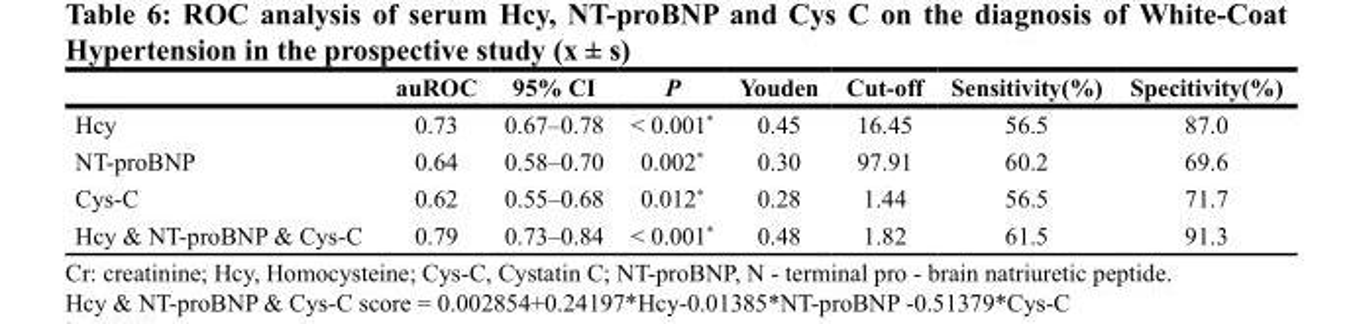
<table><thead><tr><td></td><td>auROC</td><td>95% CI</td><td>P</td><td>Youden</td><td>Cut-off</td><td>Sensitivity(%)</td><td>Specitivity(%)</td></tr></thead><tbody><tr><td>Hcy</td><td>0.73</td><td>0.67–0.78</td><td>&lt; 0.001*</td><td>0.45</td><td>16.45</td><td>56.5</td><td>87.0</td></tr><tr><td>NT-proBNP</td><td>0.64</td><td>0.58–0.70</td><td>0.002*</td><td>0.30</td><td>97.91</td><td>60.2</td><td>69.6</td></tr><tr><td>Cys-C</td><td>0.62</td><td>0.55–0.68</td><td>0.012*</td><td>0.28</td><td>1.44</td><td>56.5</td><td>71.7</td></tr><tr><td>Hcy &amp; NT-proBNP &amp; Cys-C</td><td>0.79</td><td>0.73–0.84</td><td>&lt; 0.001*</td><td>0.48</td><td>1.82</td><td>61.5</td><td>91.3</td></tr></tbody></table>